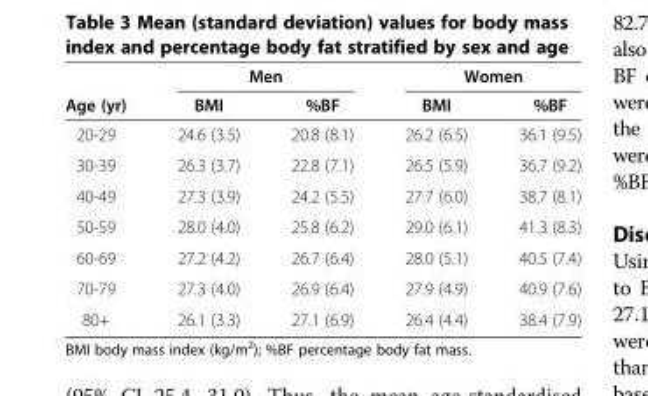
<table><thead><tr><td rowspan="2">Age (yr)</td><td colspan="2">Men</td><td colspan="2">Women</td></tr><tr><td>BMI</td><td>%BF</td><td>BMI</td><td>%BF</td></tr></thead><tbody><tr><td>20-29</td><td>24.6 (3.5)</td><td>20.8 (8.1)</td><td>26.2 (6.5)</td><td>36.1 (9.5)</td></tr><tr><td>30-39</td><td>26.3 (3.7)</td><td>22.8 (7.1)</td><td>26.5 (5.9)</td><td>36.7 (9.2)</td></tr><tr><td>40-49</td><td>27.3 (3.9)</td><td>24.2 (5.5)</td><td>27.7 (6.0)</td><td>38.7 (8.1)</td></tr><tr><td>50-59</td><td>28.0 (4.0)</td><td>25.8 (6.2)</td><td>29.0 (6.1)</td><td>41.3 (8.3)</td></tr><tr><td>60-69</td><td>27.2 (4.2)</td><td>26.7 (6.4)</td><td>28.0 (5.1)</td><td>40.5 (7.4)</td></tr><tr><td>70-79</td><td>27.3 (4.0)</td><td>26.9 (6.4)</td><td>27.9 (4.9)</td><td>40.9 (7.6)</td></tr><tr><td>80+</td><td>26.1 (3.3)</td><td>27.1 (6.9)</td><td>26.4 (4.4)</td><td>38.4 (7.9)</td></tr></tbody></table>